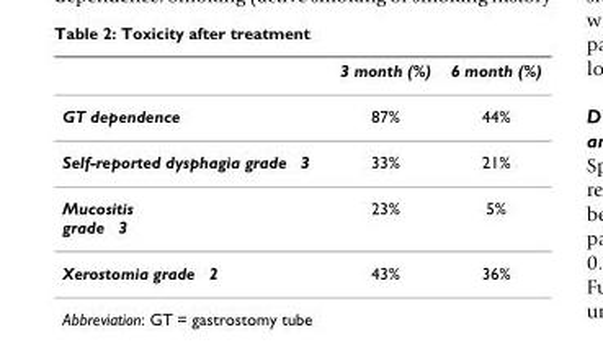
<table><thead><tr><td></td><td>3 month (%)</td><td>6 month (%)</td></tr></thead><tbody><tr><td>GT dependence</td><td>87%</td><td>44%</td></tr><tr><td>Self-reported dysphagia grade 3</td><td>33%</td><td>21%</td></tr><tr><td>Mucositis grade 3</td><td>23%</td><td>5%</td></tr><tr><td>Xerostomia grade 2</td><td>43%</td><td>36%</td></tr></tbody></table>